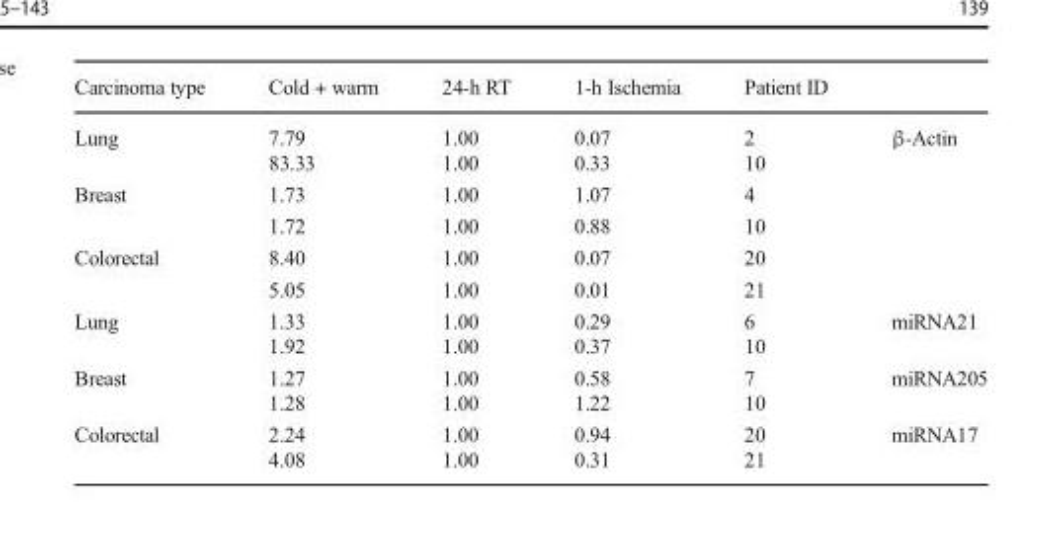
<table><thead><tr><td>Carcinoma type</td><td>Cold + warm</td><td>24-h RT</td><td>1-h Ischemia</td><td>Patient ID</td><td></td></tr></thead><tbody><tr><td rowspan="2">Lung</td><td>7.79</td><td>1.00</td><td>0.07</td><td>2</td><td rowspan="6">β-Actin</td></tr><tr><td>83.33</td><td>1.00</td><td>0.33</td><td>10</td></tr><tr><td rowspan="2">Breast</td><td>1.73</td><td>1.00</td><td>1.07</td><td>4</td></tr><tr><td>1.72</td><td>1.00</td><td>0.88</td><td>10</td></tr><tr><td rowspan="2">Colorectal</td><td>8.40</td><td>1.00</td><td>0.07</td><td>20</td></tr><tr><td>5.05</td><td>1.00</td><td>0.01</td><td>21</td></tr><tr><td rowspan="2">Lung</td><td>1.33</td><td>1.00</td><td>0.29</td><td>6</td><td rowspan="2">miRNA21</td></tr><tr><td>1.92</td><td>1.00</td><td>0.37</td><td>10</td></tr><tr><td rowspan="2">Breast</td><td>1.27</td><td>1.00</td><td>0.58</td><td>7</td><td rowspan="2">miRNA205</td></tr><tr><td>1.28</td><td>1.00</td><td>1.22</td><td>10</td></tr><tr><td rowspan="2">Colorectal</td><td>2.24</td><td>1.00</td><td>0.94</td><td>20</td><td rowspan="2">miRNA17</td></tr><tr><td>4.08</td><td>1.00</td><td>0.31</td><td>21</td></tr></tbody></table>